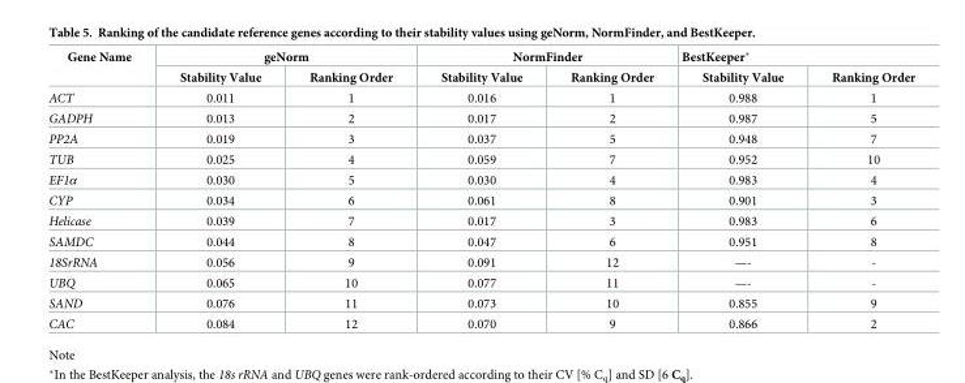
<table><thead><tr><td rowspan="2">Gene Name</td><td colspan="2">geNorm</td><td colspan="2">NormFinder</td><td colspan="2">BestKeeper*</td></tr><tr><td>Stability Value</td><td>Ranking Order</td><td>Stability Value</td><td>Ranking Order</td><td>Stability Value</td><td>Ranking Order</td></tr></thead><tbody><tr><td>ACT</td><td>0.011</td><td>1</td><td>0.016</td><td>1</td><td>0.988</td><td>1</td></tr><tr><td>GADPH</td><td>0.013</td><td>2</td><td>0.017</td><td>2</td><td>0.987</td><td>5</td></tr><tr><td>PP2A</td><td>0.019</td><td>3</td><td>0.037</td><td>5</td><td>0.948</td><td>7</td></tr><tr><td>TUB</td><td>0.025</td><td>4</td><td>0.059</td><td>7</td><td>0.952</td><td>10</td></tr><tr><td>EF1α</td><td>0.030</td><td>5</td><td>0.030</td><td>4</td><td>0.983</td><td>4</td></tr><tr><td>CYP</td><td>0.034</td><td>6</td><td>0.061</td><td>8</td><td>0.901</td><td>3</td></tr><tr><td>Helicase</td><td>0.039</td><td>7</td><td>0.017</td><td>3</td><td>0.983</td><td>6</td></tr><tr><td>SAMDC</td><td>0.044</td><td>8</td><td>0.047</td><td>6</td><td>0.951</td><td>8</td></tr><tr><td>18SrRNA</td><td>0.056</td><td>9</td><td>0.091</td><td>12</td><td>—-</td><td>-</td></tr><tr><td>UBQ</td><td>0.065</td><td>10</td><td>0.077</td><td>11</td><td>—-</td><td>-</td></tr><tr><td>SAND</td><td>0.076</td><td>11</td><td>0.073</td><td>10</td><td>0.855</td><td>9</td></tr><tr><td>CAC</td><td>0.084</td><td>12</td><td>0.070</td><td>9</td><td>0.866</td><td>2</td></tr></tbody></table>